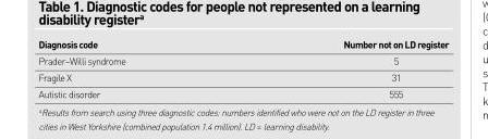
<table><thead><tr><td>Diagnosis code</td><td>Number not on LD register</td></tr></thead><tbody><tr><td>Prader–Willi syndrome</td><td>5</td></tr><tr><td>Fragile X</td><td>31</td></tr><tr><td>Autistic disorder</td><td>555</td></tr></tbody></table>